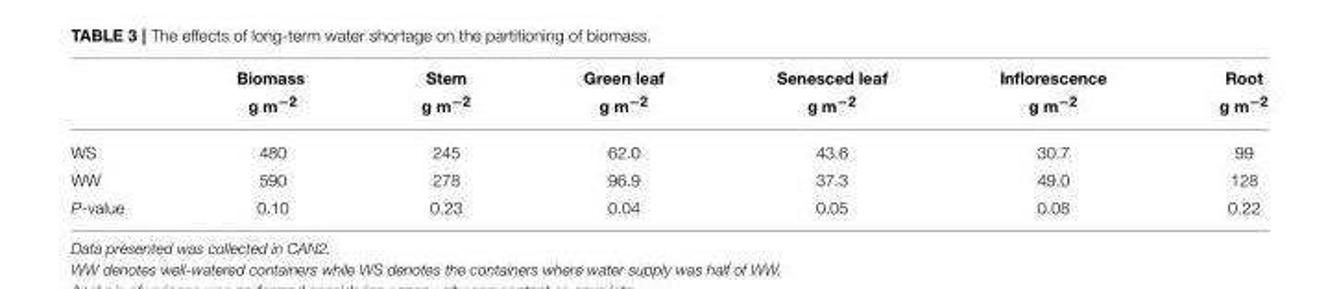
<table><thead><tr><td rowspan="2"></td><td rowspan="2">Biomass g m<sup>−2</sup></td><td rowspan="2">Stem g m<sup>−2</sup></td><td rowspan="2">Green leaf g m<sup>−2</sup></td><td rowspan="2">Senesced leaf g m<sup>−2</sup></td><td rowspan="2">Inflorescence g m<sup>−2</sup></td><td rowspan="2">Root g m<sup>−2</sup></td></tr><tr></tr></thead><tbody><tr><td>WS</td><td>480</td><td>245</td><td>62.0</td><td>43.6</td><td>30.7</td><td>99</td></tr><tr><td>WW</td><td>590</td><td>278</td><td>96.9</td><td>37.3</td><td>49.0</td><td>128</td></tr><tr><td>P-value</td><td>0.10</td><td>0.23</td><td>0.04</td><td>0.05</td><td>0.08</td><td>0.22</td></tr></tbody></table>